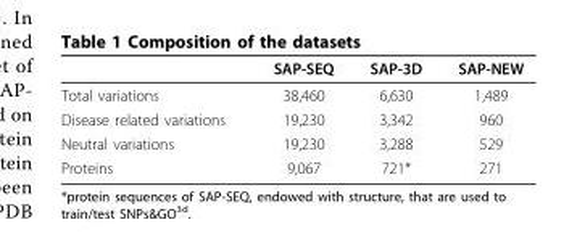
<table><thead><tr><td></td><td>SAP-SEQ</td><td>SAP-3D</td><td>SAP-NEW</td></tr></thead><tbody><tr><td>Total variations</td><td>38,460</td><td>6,630</td><td>1,489</td></tr><tr><td>Disease related variations</td><td>19,230</td><td>3,342</td><td>960</td></tr><tr><td>Neutral variations</td><td>19,230</td><td>3,288</td><td>529</td></tr><tr><td>Proteins</td><td>9,067</td><td>721*</td><td>271</td></tr></tbody></table>